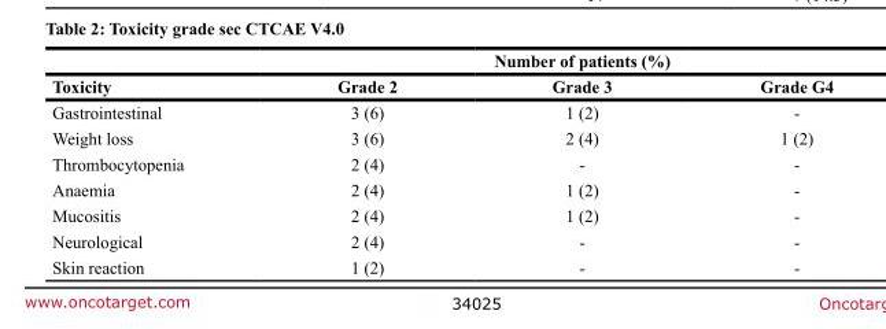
<table><thead><tr><td rowspan="2">Toxicity</td><td colspan="3">Number of patients (%)</td></tr><tr><td>Grade 2</td><td>Grade 3</td><td>Grade G4</td></tr></thead><tbody><tr><td>Gastrointestinal</td><td>3 (6)</td><td>1 (2)</td><td>-</td></tr><tr><td>Weight loss</td><td>3 (6)</td><td>2 (4)</td><td>1 (2)</td></tr><tr><td>Thrombocytopenia</td><td>2 (4)</td><td>-</td><td>-</td></tr><tr><td>Anaemia</td><td>2 (4)</td><td>1 (2)</td><td>-</td></tr><tr><td>Mucositis</td><td>2 (4)</td><td>1 (2)</td><td>-</td></tr><tr><td>Neurological</td><td>2 (4)</td><td>-</td><td>-</td></tr><tr><td>Skin reaction</td><td>1 (2)</td><td>-</td><td>-</td></tr></tbody></table>